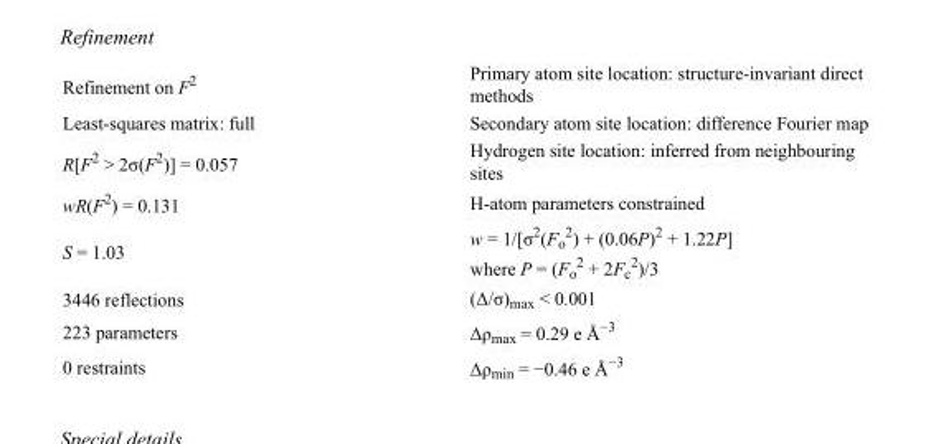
<table><tbody><tr><td>Refinement on F<sup>2</sup></td><td>Primary atom site location: structure-invariant direct methods</td></tr><tr><td>Least-squares matrix: full</td><td>Secondary atom site location: difference Fourier map</td></tr><tr><td>R[F<sup>2</sup> &gt; 2σ(F<sup>2</sup>)] = 0.057</td><td>Hydrogen site location: inferred from neighbouring sites</td></tr><tr><td>wR(F<sup>2</sup>) = 0.131</td><td>H-atom parameters constrained</td></tr><tr><td>S = 1.03</td><td>w = 1/[σ<sup>2</sup>(F<sub>o</sub> <sup>2</sup>) + (0.06P)<sup>2</sup> + 1.22P] where P = (F<sub>o</sub> <sup>2</sup> + 2F<sub>c</sub> <sup>2</sup>)/3</td></tr><tr><td>3446 reflections</td><td>(Δ/σ)<sub>max</sub> &lt; 0.001</td></tr><tr><td>223 parameters</td><td>Δρ<sub>max</sub> = 0.29 e Å<sup>−3</sup></td></tr><tr><td>0 restraints</td><td>Δρ<sub>min</sub> = −0.46 e Å<sup>−3</sup></td></tr></tbody></table>